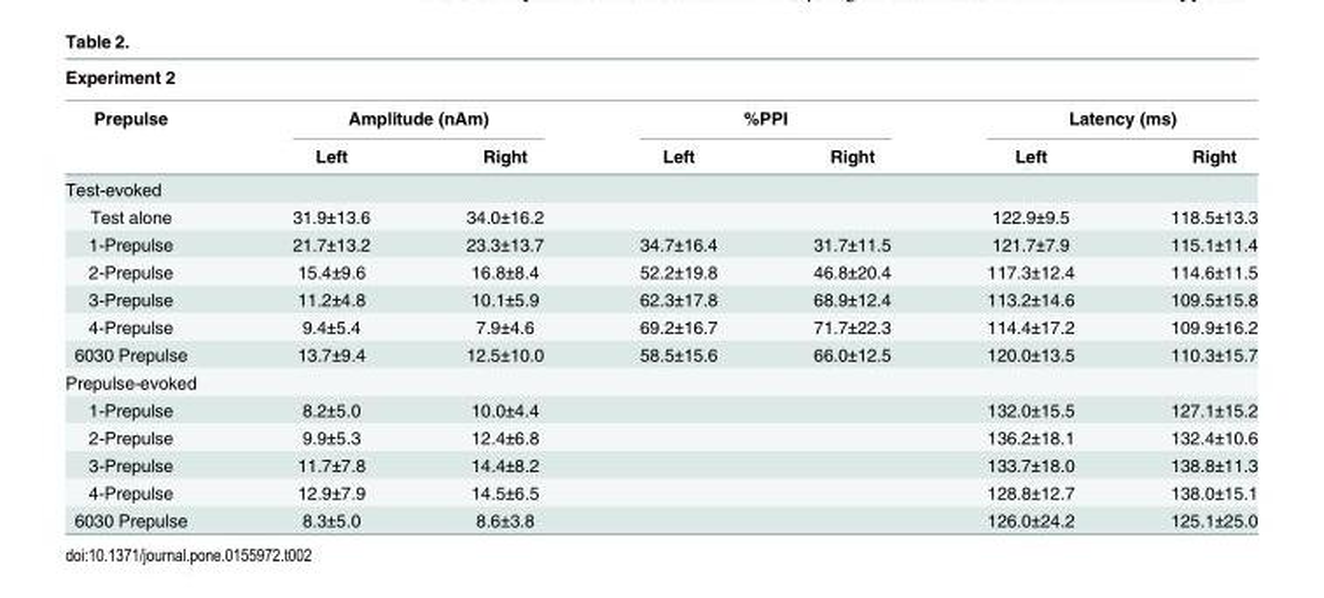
<table><thead><tr><td rowspan="3">Experiment 2 Prepulse</td><td></td><td></td><td></td><td></td><td></td><td></td></tr><tr><td colspan="2">Amplitude (nAm)</td><td colspan="2">%PPI</td><td colspan="2">Latency (ms)</td></tr><tr><td>Left</td><td>Right</td><td>Left</td><td>Right</td><td>Left</td><td>Right</td></tr></thead><tbody><tr><td colspan="7">Test-evoked</td></tr><tr><td>Test alone</td><td>31.9±13.6</td><td>34.0±16.2</td><td></td><td></td><td>122.9±9.5</td><td>118.5±13.3</td></tr><tr><td>1-Prepulse</td><td>21.7±13.2</td><td>23.3±13.7</td><td>34.7±16.4</td><td>31.7±11.5</td><td>121.7±7.9</td><td>115.1±11.4</td></tr><tr><td>2-Prepulse</td><td>15.4±9.6</td><td>16.8±8.4</td><td>52.2±19.8</td><td>46.8±20.4</td><td>117.3±12.4</td><td>114.6±11.5</td></tr><tr><td>3-Prepulse</td><td>11.2±4.8</td><td>10.1±5.9</td><td>62.3±17.8</td><td>68.9±12.4</td><td>113.2±14.6</td><td>109.5±15.8</td></tr><tr><td>4-Prepulse</td><td>9.4±5.4</td><td>7.9±4.6</td><td>69.2±16.7</td><td>71.7±22.3</td><td>114.4±17.2</td><td>109.9±16.2</td></tr><tr><td>6030 Prepulse</td><td>13.7±9.4</td><td>12.5±10.0</td><td>58.5±15.6</td><td>66.0±12.5</td><td>120.0±13.5</td><td>110.3±15.7</td></tr><tr><td colspan="7">Prepulse-evoked</td></tr><tr><td>1-Prepulse</td><td>8.2±5.0</td><td>10.0±4.4</td><td></td><td></td><td>132.0±15.5</td><td>127.1±15.2</td></tr><tr><td>2-Prepulse</td><td>9.9±5.3</td><td>12.4±6.8</td><td></td><td></td><td>136.2±18.1</td><td>132.4±10.6</td></tr><tr><td>3-Prepulse</td><td>11.7±7.8</td><td>14.4±8.2</td><td></td><td></td><td>133.7±18.0</td><td>138.8±11.3</td></tr><tr><td>4-Prepulse</td><td>12.9±7.9</td><td>14.5±6.5</td><td></td><td></td><td>128.8±12.7</td><td>138.0±15.1</td></tr><tr><td>6030 Prepulse</td><td>8.3±5.0</td><td>8.6±3.8</td><td></td><td></td><td>126.0±24.2</td><td>125.1±25.0</td></tr></tbody></table>